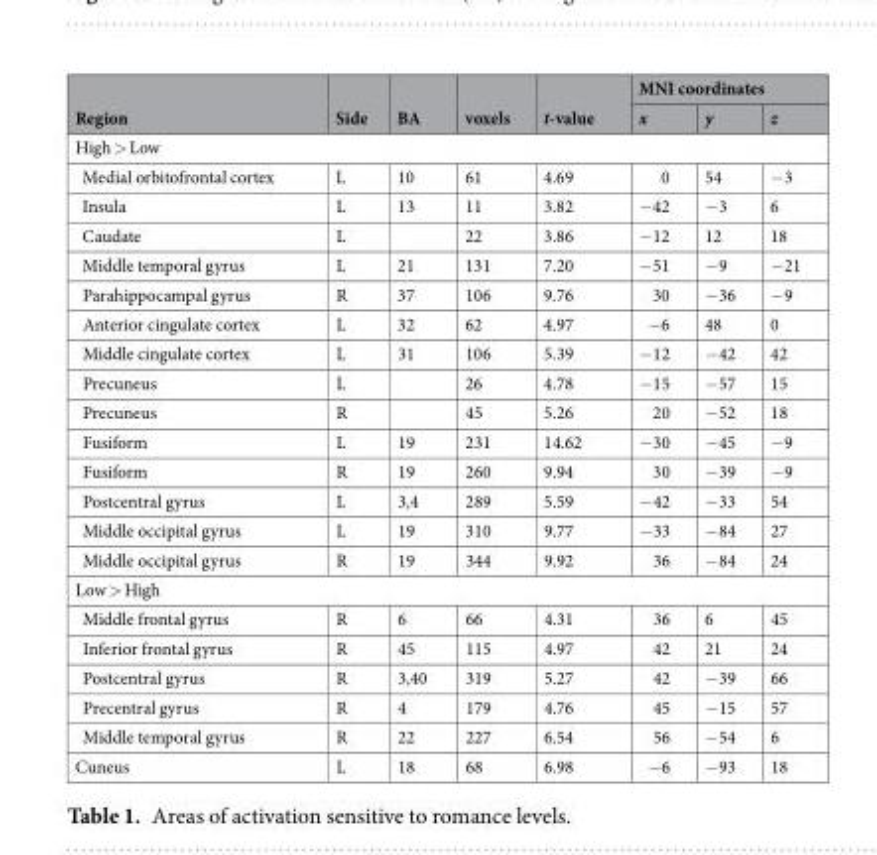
<table><thead><tr><td rowspan="2">Region</td><td rowspan="2">Side</td><td rowspan="2">BA</td><td rowspan="2">voxels</td><td rowspan="2">t-value</td><td colspan="3">MNI coordinates</td></tr><tr><td>x</td><td>y</td><td>z</td></tr></thead><tbody><tr><td colspan="8">High &gt; Low</td></tr><tr><td>Medial orbitofrontal cortex</td><td>L</td><td>10</td><td>61</td><td>4.69</td><td>0</td><td>54</td><td>−3</td></tr><tr><td>Insula</td><td>L</td><td>13</td><td>11</td><td>3.82</td><td>−42</td><td>−3</td><td>6</td></tr><tr><td>Caudate</td><td>L</td><td></td><td>22</td><td>3.86</td><td>−12</td><td>12</td><td>18</td></tr><tr><td>Middle temporal gyrus</td><td>L</td><td>21</td><td>131</td><td>7.20</td><td>−51</td><td>−9</td><td>−21</td></tr><tr><td>Parahippocampal gyrus</td><td>R</td><td>37</td><td>106</td><td>9.76</td><td>30</td><td>−36</td><td>−9</td></tr><tr><td>Anterior cingulate cortex</td><td>L</td><td>32</td><td>62</td><td>4.97</td><td>−6</td><td>48</td><td>0</td></tr><tr><td>Middle cingulate cortex</td><td>L</td><td>31</td><td>106</td><td>5.39</td><td>−12</td><td>−42</td><td>42</td></tr><tr><td>Precuneus</td><td>L</td><td></td><td>26</td><td>4.78</td><td>−15</td><td>−57</td><td>15</td></tr><tr><td>Precuneus</td><td>R</td><td></td><td>45</td><td>5.26</td><td>20</td><td>−52</td><td>18</td></tr><tr><td>Fusiform</td><td>L</td><td>19</td><td>231</td><td>14.62</td><td>−30</td><td>−45</td><td>−9</td></tr><tr><td>Fusiform</td><td>R</td><td>19</td><td>260</td><td>9.94</td><td>30</td><td>−39</td><td>−9</td></tr><tr><td>Postcentral gyrus</td><td>L</td><td>3,4</td><td>289</td><td>5.59</td><td>−42</td><td>−33</td><td>54</td></tr><tr><td>Middle occipital gyrus</td><td>L</td><td>19</td><td>310</td><td>9.77</td><td>−33</td><td>−84</td><td>27</td></tr><tr><td>Middle occipital gyrus</td><td>R</td><td>19</td><td>344</td><td>9.92</td><td>36</td><td>−84</td><td>24</td></tr><tr><td colspan="8">Low &gt; High</td></tr><tr><td>Middle frontal gyrus</td><td>R</td><td>6</td><td>66</td><td>4.31</td><td>36</td><td>6</td><td>45</td></tr><tr><td>Inferior frontal gyrus</td><td>R</td><td>45</td><td>115</td><td>4.97</td><td>42</td><td>21</td><td>24</td></tr><tr><td>Postcentral gyrus</td><td>R</td><td>3,40</td><td>319</td><td>5.27</td><td>42</td><td>−39</td><td>66</td></tr><tr><td>Precentral gyrus</td><td>R</td><td>4</td><td>179</td><td>4.76</td><td>45</td><td>−15</td><td>57</td></tr><tr><td>Middle temporal gyrus</td><td>R</td><td>22</td><td>227</td><td>6.54</td><td>56</td><td>−54</td><td>6</td></tr><tr><td>Cuneus</td><td>L</td><td>18</td><td>68</td><td>6.98</td><td>−6</td><td>−93</td><td>18</td></tr></tbody></table>